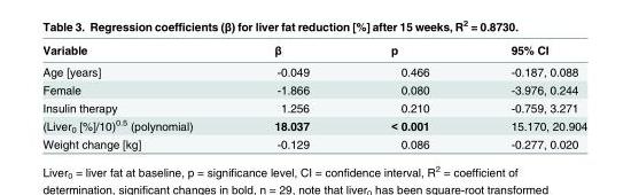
<table><thead><tr><td>Variable</td><td>β</td><td>p</td><td>95% CI</td></tr></thead><tbody><tr><td>Age [years]</td><td>-0.049</td><td>0.466</td><td>-0.187, 0.088</td></tr><tr><td>Female</td><td>-1.866</td><td>0.080</td><td>-3.976, 0.244</td></tr><tr><td>Insulin therapy</td><td>1.256</td><td>0.210</td><td>-0.759, 3.271</td></tr><tr><td>(Liver<sub>0</sub> [%]/10)<sup>0.5</sup> (polynomial)</td><td>18.037</td><td>&lt; 0.001</td><td>15.170, 20.904</td></tr><tr><td>Weight change [kg]</td><td>-0.129</td><td>0.086</td><td>-0.277, 0.020</td></tr></tbody></table>